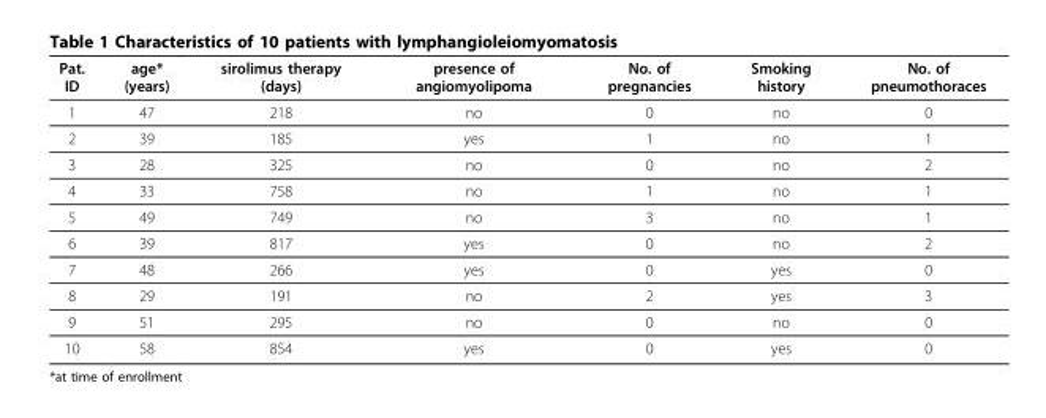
<table><thead><tr><td>Pat. ID</td><td>age* (years)</td><td>sirolimus therapy (days)</td><td>presence of angiomyolipoma</td><td>No. of pregnancies</td><td>Smoking history</td><td>No. of pneumothoraces</td></tr></thead><tbody><tr><td>1</td><td>47</td><td>218</td><td>no</td><td>0</td><td>no</td><td>0</td></tr><tr><td>2</td><td>39</td><td>185</td><td>yes</td><td>1</td><td>no</td><td>1</td></tr><tr><td>3</td><td>28</td><td>325</td><td>no</td><td>0</td><td>no</td><td>2</td></tr><tr><td>4</td><td>33</td><td>758</td><td>no</td><td>1</td><td>no</td><td>1</td></tr><tr><td>5</td><td>49</td><td>749</td><td>no</td><td>3</td><td>no</td><td>1</td></tr><tr><td>6</td><td>39</td><td>817</td><td>yes</td><td>0</td><td>no</td><td>2</td></tr><tr><td>7</td><td>48</td><td>266</td><td>yes</td><td>0</td><td>yes</td><td>0</td></tr><tr><td>8</td><td>29</td><td>191</td><td>no</td><td>2</td><td>yes</td><td>3</td></tr><tr><td>9</td><td>51</td><td>295</td><td>no</td><td>0</td><td>no</td><td>0</td></tr><tr><td>10</td><td>58</td><td>854</td><td>yes</td><td>0</td><td>yes</td><td>0</td></tr></tbody></table>